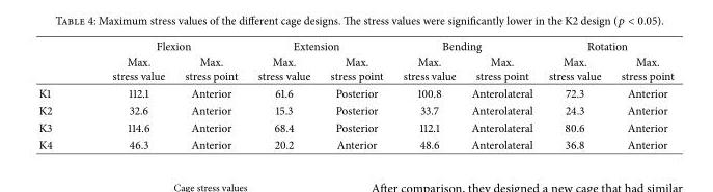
<table><thead><tr><td rowspan="2"></td><td colspan="2">Flexion</td><td colspan="2">Extension</td><td colspan="2">Bending</td><td colspan="2">Rotation</td></tr><tr><td>Max. stress value</td><td>Max. stress point</td><td>Max. stress value</td><td>Max. stress point</td><td>Max. stress value</td><td>Max. stress point</td><td>Max. stress value</td><td>Max. stress point</td></tr></thead><tbody><tr><td>K1</td><td>112.1</td><td>Anterior</td><td>61.6</td><td>Posterior</td><td>100.8</td><td>Anterolateral</td><td>72.3</td><td>Anterior</td></tr><tr><td>K2</td><td>32.6</td><td>Anterior</td><td>15.3</td><td>Posterior</td><td>33.7</td><td>Anterolateral</td><td>24.3</td><td>Anterior</td></tr><tr><td>K3</td><td>114.6</td><td>Anterior</td><td>68.4</td><td>Posterior</td><td>112.1</td><td>Anterolateral</td><td>80.6</td><td>Anterior</td></tr><tr><td>K4</td><td>46.3</td><td>Anterior</td><td>20.2</td><td>Anterior</td><td>48.6</td><td>Anterolateral</td><td>36.8</td><td>Anterior</td></tr></tbody></table>